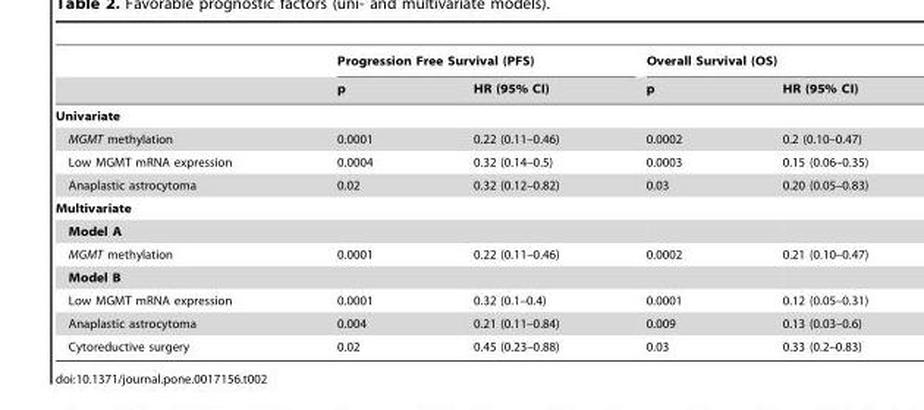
<table><thead><tr><td rowspan="2"></td><td colspan="2">Progression Free Survival (PFS)</td><td colspan="2">Overall Survival (OS)</td></tr><tr><td>p</td><td>HR (95% CI)</td><td>p</td><td>HR (95% CI)</td></tr></thead><tbody><tr><td colspan="5">Univariate</td></tr><tr><td>MGMT methylation</td><td>0.0001</td><td>0.22 (0.11–0.46)</td><td>0.0002</td><td>0.2 (0.10–0.47)</td></tr><tr><td>Low MGMT mRNA expression</td><td>0.0004</td><td>0.32 (0.14–0.5)</td><td>0.0003</td><td>0.15 (0.06–0.35)</td></tr><tr><td>Anaplastic astrocytoma</td><td>0.02</td><td>0.32 (0.12–0.82)</td><td>0.03</td><td>0.20 (0.05–0.83)</td></tr><tr><td colspan="5">Multivariate</td></tr><tr><td colspan="5">Model A</td></tr><tr><td>MGMT methylation</td><td>0.0001</td><td>0.22 (0.11–0.46)</td><td>0.0002</td><td>0.21 (0.10–0.47)</td></tr><tr><td colspan="5">Model B</td></tr><tr><td>Low MGMT mRNA expression</td><td>0.0001</td><td>0.32 (0.1–0.4)</td><td>0.0001</td><td>0.12 (0.05–0.31)</td></tr><tr><td>Anaplastic astrocytoma</td><td>0.004</td><td>0.21 (0.11–0.84)</td><td>0.009</td><td>0.13 (0.03–0.6)</td></tr><tr><td>Cytoreductive surgery</td><td>0.02</td><td>0.45 (0.23–0.88)</td><td>0.03</td><td>0.33 (0.2–0.83)</td></tr></tbody></table>